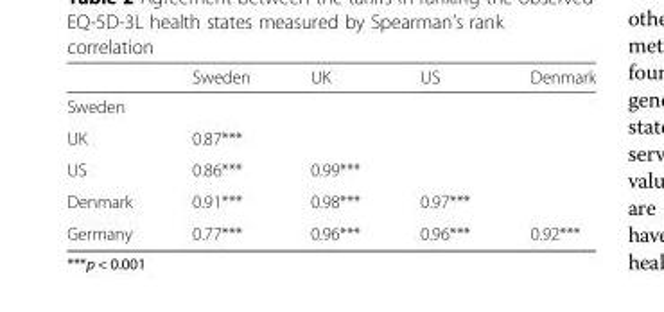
<table><thead><tr><td></td><td>Sweden</td><td>UK</td><td>US</td><td>Denmark</td></tr></thead><tbody><tr><td colspan="5">Sweden</td></tr><tr><td>UK</td><td>0.87***</td><td></td><td></td><td></td></tr><tr><td>US</td><td>0.86***</td><td>0.99***</td><td></td><td></td></tr><tr><td>Denmark</td><td>0.91***</td><td>0.98***</td><td>0.97***</td><td></td></tr><tr><td>Germany</td><td>0.77***</td><td>0.96***</td><td>0.96***</td><td>0.92***</td></tr></tbody></table>